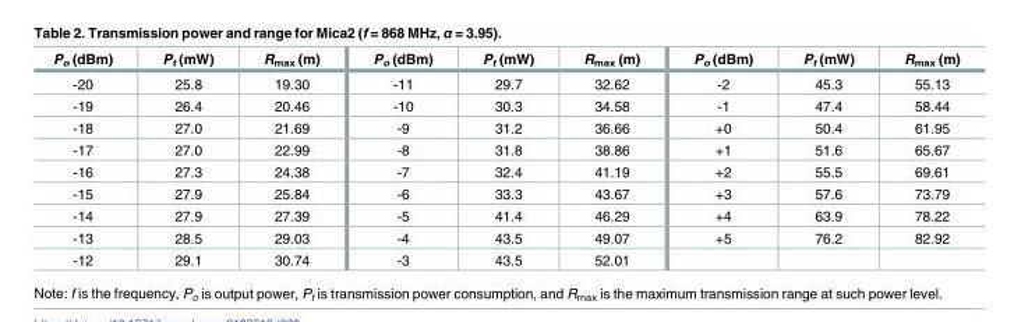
<table><thead><tr><td>P<sub>o</sub> (dBm)</td><td>P<sub>t</sub> (mW)</td><td>R<sub>max</sub> (m)</td><td>P<sub>o</sub> (dBm)</td><td>P<sub>t</sub> (mW)</td><td>R<sub>max</sub> (m)</td><td>P<sub>o</sub> (dBm)</td><td>P<sub>t</sub> (mW)</td><td>R<sub>max</sub> (m)</td></tr></thead><tbody><tr><td>-20</td><td>25.8</td><td>19.30</td><td>-11</td><td>29.7</td><td>32.62</td><td>-2</td><td>45.3</td><td>55.13</td></tr><tr><td>-19</td><td>26.4</td><td>20.46</td><td>-10</td><td>30.3</td><td>34.58</td><td>-1</td><td>47.4</td><td>58.44</td></tr><tr><td>-18</td><td>27.0</td><td>21.69</td><td>-9</td><td>31.2</td><td>36.66</td><td>+0</td><td>50.4</td><td>61.95</td></tr><tr><td>-17</td><td>27.0</td><td>22.99</td><td>-8</td><td>31.8</td><td>38.86</td><td>+1</td><td>51.6</td><td>65.67</td></tr><tr><td>-16</td><td>27.3</td><td>24.38</td><td>-7</td><td>32.4</td><td>41.19</td><td>+2</td><td>55.5</td><td>69.61</td></tr><tr><td>-15</td><td>27.9</td><td>25.84</td><td>-6</td><td>33.3</td><td>43.67</td><td>+3</td><td>57.6</td><td>73.79</td></tr><tr><td>-14</td><td>27.9</td><td>27.39</td><td>-5</td><td>41.4</td><td>46.29</td><td>+4</td><td>63.9</td><td>78.22</td></tr><tr><td>-13</td><td>28.5</td><td>29.03</td><td>-4</td><td>43.5</td><td>49.07</td><td>+5</td><td>76.2</td><td>82.92</td></tr><tr><td>-12</td><td>29.1</td><td>30.74</td><td>-3</td><td>43.5</td><td>52.01</td><td></td><td></td><td></td></tr></tbody></table>